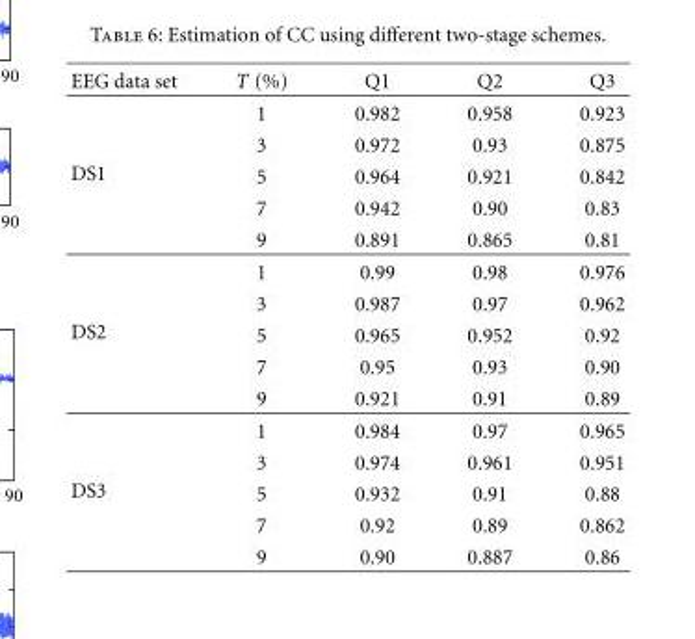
<table><thead><tr><td>EEG data set</td><td>T (%)</td><td>Q1</td><td>Q2</td><td>Q3</td></tr></thead><tbody><tr><td rowspan="5">DS1</td><td>1</td><td>0.982</td><td>0.958</td><td>0.923</td></tr><tr><td>3</td><td>0.972</td><td>0.93</td><td>0.875</td></tr><tr><td>5</td><td>0.964</td><td>0.921</td><td>0.842</td></tr><tr><td>7</td><td>0.942</td><td>0.90</td><td>0.83</td></tr><tr><td>9</td><td>0.891</td><td>0.865</td><td>0.81</td></tr><tr><td rowspan="5">DS2</td><td>1</td><td>0.99</td><td>0.98</td><td>0.976</td></tr><tr><td>3</td><td>0.987</td><td>0.97</td><td>0.962</td></tr><tr><td>5</td><td>0.965</td><td>0.952</td><td>0.92</td></tr><tr><td>7</td><td>0.95</td><td>0.93</td><td>0.90</td></tr><tr><td>9</td><td>0.921</td><td>0.91</td><td>0.89</td></tr><tr><td rowspan="5">DS3</td><td>1</td><td>0.984</td><td>0.97</td><td>0.965</td></tr><tr><td>3</td><td>0.974</td><td>0.961</td><td>0.951</td></tr><tr><td>5</td><td>0.932</td><td>0.91</td><td>0.88</td></tr><tr><td>7</td><td>0.92</td><td>0.89</td><td>0.862</td></tr><tr><td>9</td><td>0.90</td><td>0.887</td><td>0.86</td></tr></tbody></table>